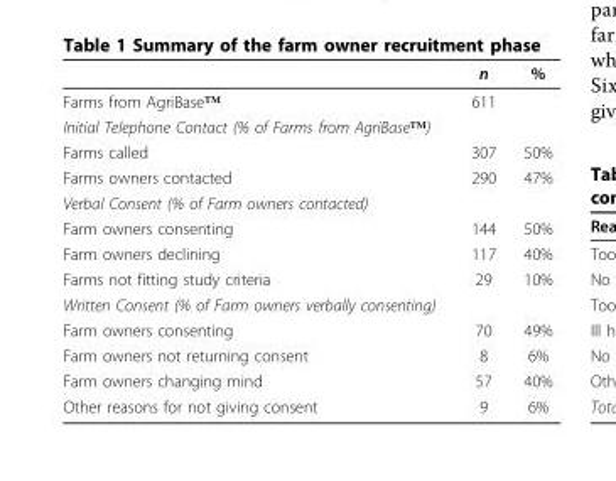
<table><thead><tr><td></td><td>n</td><td>%</td></tr></thead><tbody><tr><td>Farms from AgriBase™</td><td>611</td><td></td></tr><tr><td colspan="3">Initial Telephone Contact (% of Farms from AgriBase™)</td></tr><tr><td>Farms called</td><td>307</td><td>50%</td></tr><tr><td>Farms owners contacted</td><td>290</td><td>47%</td></tr><tr><td colspan="3">Verbal Consent (% of Farm owners contacted)</td></tr><tr><td>Farm owners consenting</td><td>144</td><td>50%</td></tr><tr><td>Farm owners declining</td><td>117</td><td>40%</td></tr><tr><td>Farms not fitting study criteria</td><td>29</td><td>10%</td></tr><tr><td colspan="3">Written Consent (% of Farm owners verbally consenting)</td></tr><tr><td>Farm owners consenting</td><td>70</td><td>49%</td></tr><tr><td>Farm owners not returning consent</td><td>8</td><td>6%</td></tr><tr><td>Farm owners changing mind</td><td>57</td><td>40%</td></tr><tr><td>Other reasons for not giving consent</td><td>9</td><td>6%</td></tr></tbody></table>